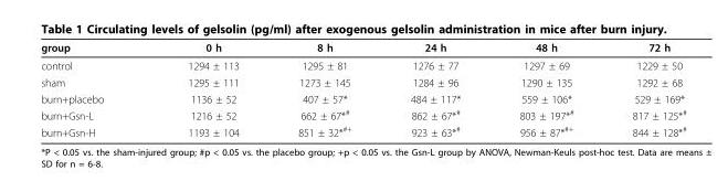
<table><thead><tr><td>group</td><td>0 h</td><td>8 h</td><td>24 h</td><td>48 h</td><td>72 h</td></tr></thead><tbody><tr><td>control</td><td>1294 ± 113</td><td>1295 ± 81</td><td>1276 ± 77</td><td>1297 ± 69</td><td>1229 ± 50</td></tr><tr><td>sham</td><td>1295 ± 111</td><td>1273 ± 145</td><td>1284 ± 96</td><td>1290 ± 135</td><td>1292 ± 68</td></tr><tr><td>burn+placebo</td><td>1136 ± 52</td><td>407 ± 57*</td><td>484 ± 117*</td><td>559 ± 106*</td><td>529 ± 169*</td></tr><tr><td>burn+Gsn-L</td><td>1216 ± 52</td><td>662 ± 67*<sup>#</sup></td><td>862 ± 67*<sup>#</sup></td><td>803 ± 197*<sup>#</sup></td><td>817 ± 125*<sup>#</sup></td></tr><tr><td>burn+Gsn-H</td><td>1193 ± 104</td><td>851 ± 32*<sup>#+</sup></td><td>923 ± 63*<sup>#</sup></td><td>956 ± 87*<sup>#+</sup></td><td>844 ± 128*<sup>#</sup></td></tr></tbody></table>